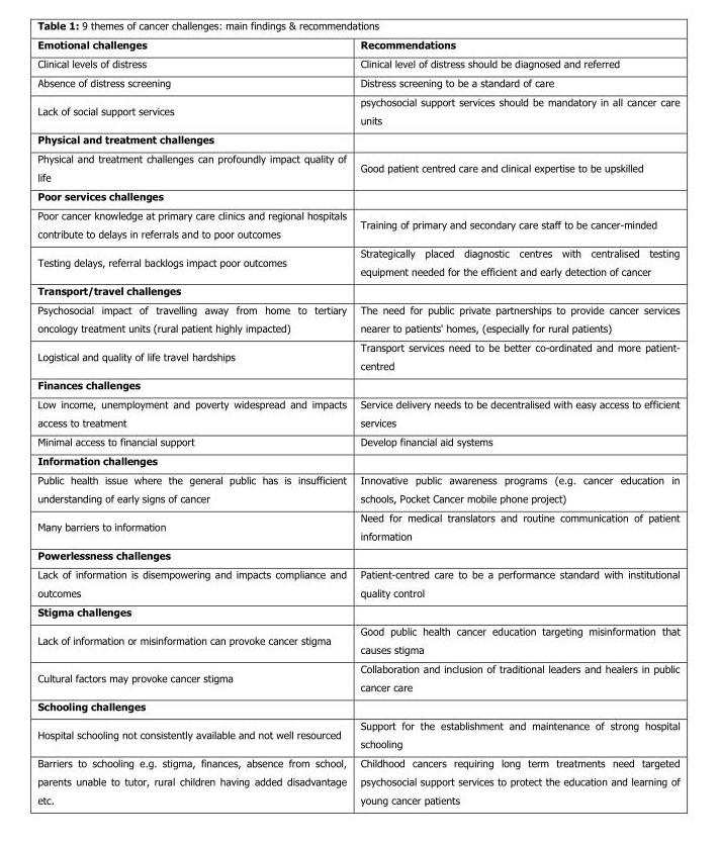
<table><thead><tr><td>Emotional challenges</td><td>Recommendations</td></tr></thead><tbody><tr><td>Clinical levels of distress</td><td>Clinical level of distress should be diagnosed and referred</td></tr><tr><td>Absence of distress screening</td><td>Distress screening to be a standard of care</td></tr><tr><td>Lack of social support services</td><td>psychosocial support services should be mandatory in all cancer care units</td></tr><tr><td colspan="2">Physical and treatment challenges</td></tr><tr><td>Physical and treatment challenges can profoundly impact quality of life</td><td>Good patient centred care and clinical expertise to be upskilled</td></tr><tr><td colspan="2">Poor services challenges</td></tr><tr><td>Poor cancer knowledge at primary care clinics and regional hospitals contribute to delays in referrals and to poor outcomes</td><td>Training of primary and secondary care staff to be cancer-minded</td></tr><tr><td>Testing delays, referral backlogs impact poor outcomes</td><td>Strategically placed diagnostic centres with centralised testing equipment needed for the efficient and early detection of cancer</td></tr><tr><td colspan="2">Transport/travel challenges</td></tr><tr><td>Psychosocial impact of travelling away from home to tertiary oncology treatment units (rural patient highly impacted)</td><td>The need for public private partnerships to provide cancer services nearer to patients&#x27; homes, (especially for rural patients)</td></tr><tr><td>Logistical and quality of life travel hardships</td><td>Transport services need to be better co-ordinated and more patient- centred</td></tr><tr><td colspan="2">Finances challenges</td></tr><tr><td>Low income, unemployment and poverty widespread and impacts access to treatment</td><td>Service delivery needs to be decentralised with easy access to efficient services</td></tr><tr><td>Minimal access to financial support</td><td>Develop financial aid systems</td></tr><tr><td colspan="2">Information challenges</td></tr><tr><td>Public health issue where the general public has is insufficient understanding of early signs of cancer</td><td>Innovative public awareness programs (e.g. cancer education in schools, Pocket Cancer mobile phone project)</td></tr><tr><td>Many barriers to information</td><td>Need for medical translators and routine communication of patient information</td></tr><tr><td colspan="2">Powerlessness challenges</td></tr><tr><td>Lack of information is disempowering and impacts compliance and outcomes</td><td>Patient-centred care to be a performance standard with institutional quality control</td></tr><tr><td colspan="2">Stigma challenges</td></tr><tr><td>Lack of information or misinformation can provoke cancer stigma</td><td>Good public health cancer education targeting misinformation that causes stigma</td></tr><tr><td>Cultural factors may provoke cancer stigma</td><td>Collaboration and inclusion of traditional leaders and healers in public cancer care</td></tr><tr><td colspan="2">Schooling challenges</td></tr><tr><td>Hospital schooling not consistently available and not well resourced</td><td>Support for the establishment and maintenance of strong hospital schooling</td></tr><tr><td>Barriers to schooling e.g. stigma, finances, absence from school, parents unable to tutor, rural children having added disadvantage etc.</td><td>Childhood cancers requiring long term treatments need targeted psychosocial support services to protect the education and learning of young cancer patients</td></tr></tbody></table>